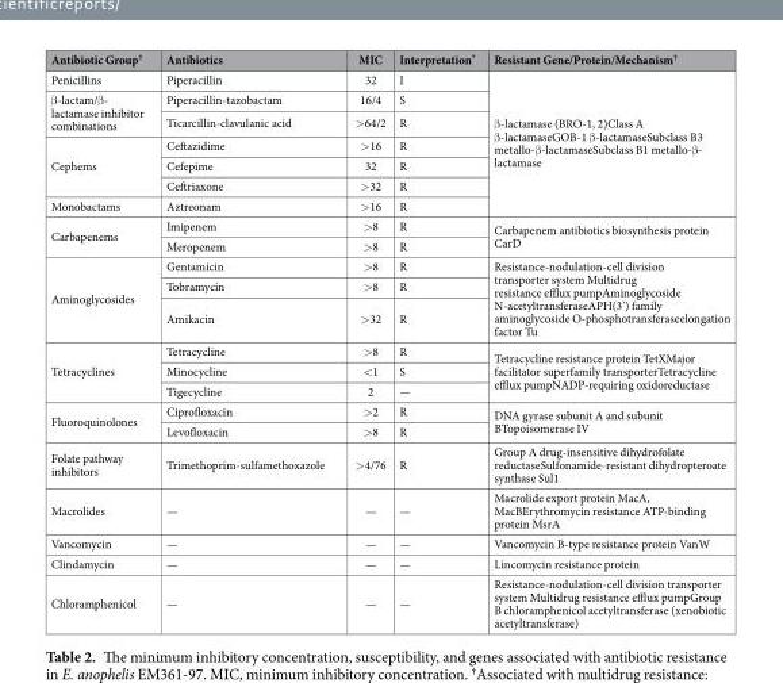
<table><thead><tr><td>Antibiotic Group<sup>†</sup></td><td>Antibiotics</td><td>MIC</td><td>Interpretation*</td><td>Resistant Gene/Protein/Mechanism<sup>†</sup></td></tr></thead><tbody><tr><td>Penicillins</td><td>Piperacillin</td><td>32</td><td>I</td><td rowspan="7">β-lactamase (BRO-1, 2)Class A β-lactamaseGOB-1 β-lactamaseSubclass B3 metallo-β-lactamaseSubclass B1 metallo-β- lactamase</td></tr><tr><td rowspan="2">β-lactam/β- lactamase inhibitor combinations</td><td>Piperacillin-tazobactam</td><td>16/4</td><td>S</td></tr><tr><td>Ticarcillin-clavulanic acid</td><td>&gt;64/2</td><td>R</td></tr><tr><td rowspan="3">Cephems</td><td>Ceftazidime</td><td>&gt;16</td><td>R</td></tr><tr><td>Cefepime</td><td>32</td><td>R</td></tr><tr><td>Ceftriaxone</td><td>&gt;32</td><td>R</td></tr><tr><td>Monobactams</td><td>Aztreonam</td><td>&gt;16</td><td>R</td></tr><tr><td rowspan="2">Carbapenems</td><td>Imipenem</td><td>&gt;8</td><td>R</td><td rowspan="2">Carbapenem antibiotics biosynthesis protein CarD</td></tr><tr><td>Meropenem</td><td>&gt;8</td><td>R</td></tr><tr><td rowspan="3">Aminoglycosides</td><td>Gentamicin</td><td>&gt;8</td><td>R</td><td rowspan="3">Resistance-nodulation-cell division transporter system Multidrug resistance efflux pumpAminoglycoside N-acetyltransferaseAPH(3’) family aminoglycoside O-phosphotransferaseelongation factor Tu</td></tr><tr><td>Tobramycin</td><td>&gt;8</td><td>R</td></tr><tr><td>Amikacin</td><td>&gt;32</td><td>R</td></tr><tr><td rowspan="3">Tetracyclines</td><td>Tetracycline</td><td>&gt;8</td><td>R</td><td rowspan="3">Tetracycline resistance protein TetXMajor facilitator superfamily transporterTetracycline efflux pumpNADP-requiring oxidoreductase</td></tr><tr><td>Minocycline</td><td>&lt;1</td><td>S</td></tr><tr><td>Tigecycline</td><td>2</td><td>—</td></tr><tr><td rowspan="2">Fluoroquinolones</td><td>Ciprofloxacin</td><td>&gt;2</td><td>R</td><td rowspan="2">DNA gyrase subunit A and subunit BTopoisomerase IV</td></tr><tr><td>Levofloxacin</td><td>&gt;8</td><td>R</td></tr><tr><td>Folate pathway inhibitors</td><td>Trimethoprim-sulfamethoxazole</td><td>&gt;4/76</td><td>R</td><td>Group A drug-insensitive dihydrofolate reductaseSulfonamide-resistant dihydropteroate synthase Sul1</td></tr><tr><td>Macrolides</td><td>—</td><td>—</td><td>—</td><td>Macrolide export protein MacA, MacBErythromycin resistance ATP-binding protein MsrA</td></tr><tr><td>Vancomycin</td><td>—</td><td>—</td><td>—</td><td>Vancomycin B-type resistance protein VanW</td></tr><tr><td>Clindamycin</td><td>—</td><td>—</td><td>—</td><td>Lincomycin resistance protein</td></tr><tr><td>Chloramphenicol</td><td>—</td><td>—</td><td>—</td><td>Resistance-nodulation-cell division transporter system Multidrug resistance efflux pumpGroup B chloramphenicol acetyltransferase (xenobiotic acetyltransferase)</td></tr></tbody></table>